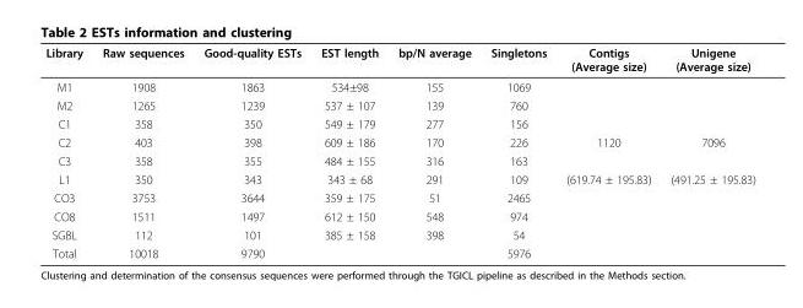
<table><thead><tr><td>Library</td><td>Raw sequences</td><td>Good-quality ESTs</td><td>EST length</td><td>bp/N average</td><td>Singletons</td><td>Contigs (Average size)</td><td>Unigene (Average size)</td></tr></thead><tbody><tr><td>M1</td><td>1908</td><td>1863</td><td>534±98</td><td>155</td><td>1069</td><td></td><td></td></tr><tr><td>M2</td><td>1265</td><td>1239</td><td>537 ± 107</td><td>139</td><td>760</td><td></td><td></td></tr><tr><td>C1</td><td>358</td><td>350</td><td>549 ± 179</td><td>277</td><td>156</td><td></td><td></td></tr><tr><td>C2</td><td>403</td><td>398</td><td>609 ± 186</td><td>170</td><td>226</td><td>1120</td><td>7096</td></tr><tr><td>C3</td><td>358</td><td>355</td><td>484 ± 155</td><td>316</td><td>163</td><td></td><td></td></tr><tr><td>L1</td><td>350</td><td>343</td><td>343 ± 68</td><td>291</td><td>109</td><td>(619.74 ± 195.83)</td><td>(491.25 ± 195.83)</td></tr><tr><td>CO3</td><td>3753</td><td>3644</td><td>359 ± 175</td><td>51</td><td>2465</td><td></td><td></td></tr><tr><td>CO8</td><td>1511</td><td>1497</td><td>612 ± 150</td><td>548</td><td>974</td><td></td><td></td></tr><tr><td>SGBL</td><td>112</td><td>101</td><td>385 ± 158</td><td>398</td><td>54</td><td></td><td></td></tr><tr><td>Total</td><td>10018</td><td>9790</td><td></td><td></td><td>5976</td><td></td><td></td></tr></tbody></table>